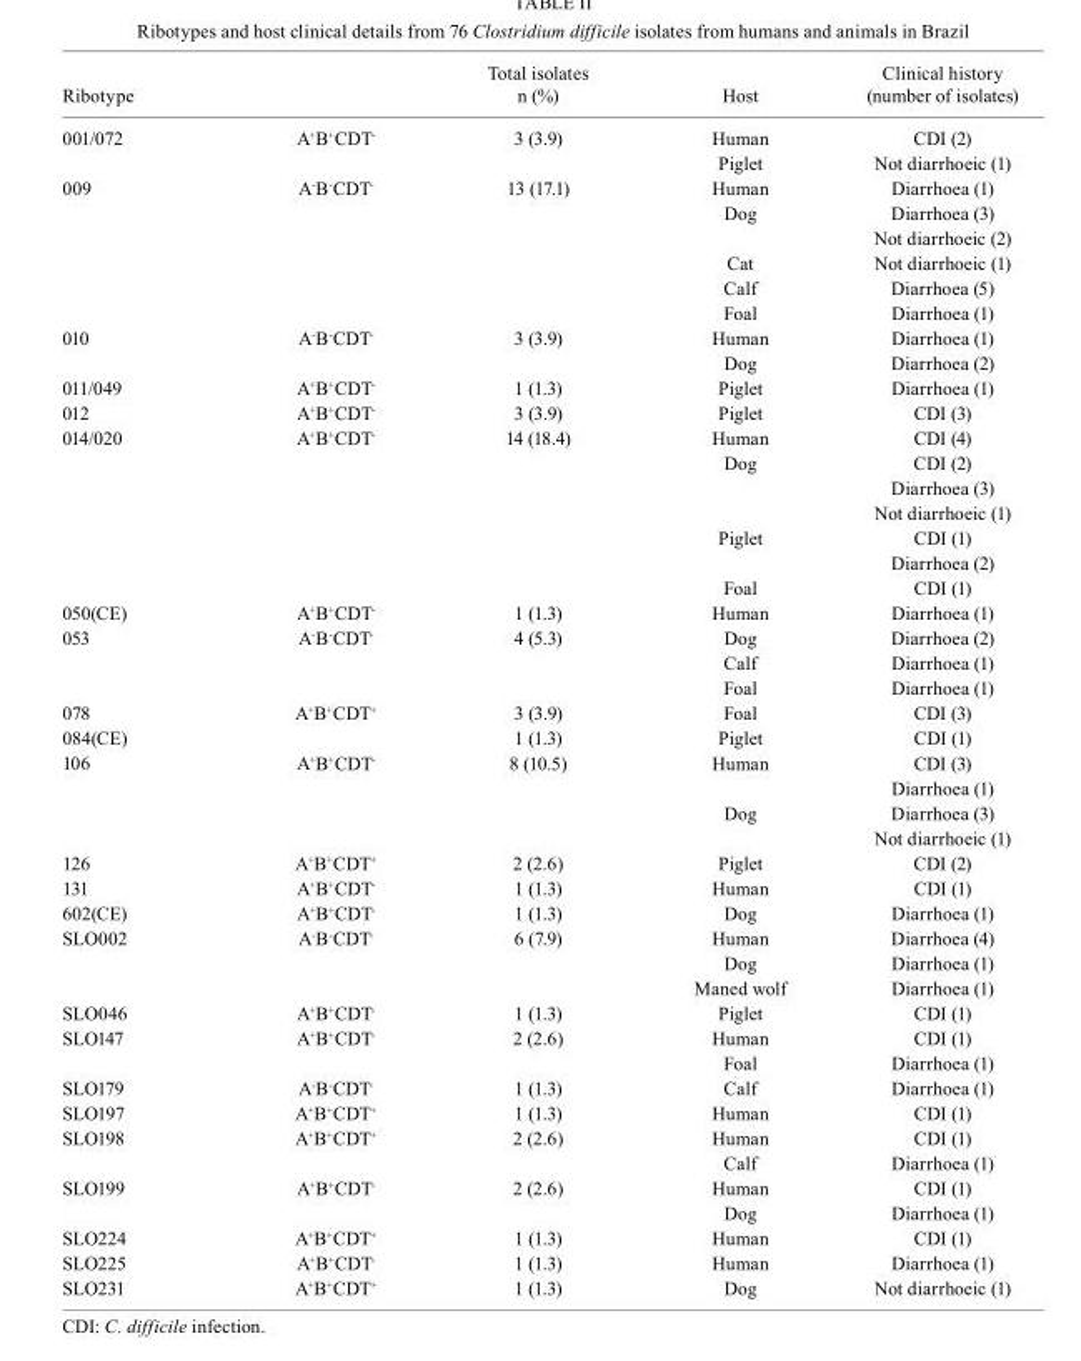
<table><thead><tr><td>Ribotype</td><td></td><td>Total isolates n (%)</td><td>Host</td><td>Clinical history (number of isolates)</td></tr></thead><tbody><tr><td rowspan="2">001/072</td><td rowspan="2">A<sup>+</sup>B<sup>+</sup>CDT<sup>-</sup></td><td rowspan="2">3 (3.9)</td><td>Human</td><td>CDI (2)</td></tr><tr><td>Piglet</td><td>Not diarrhoeic (1)</td></tr><tr><td rowspan="6">009</td><td rowspan="6">A<sup>-</sup>B<sup>-</sup>CDT<sup>-</sup></td><td rowspan="6">13 (17.1)</td><td>Human</td><td>Diarrhoea (1)</td></tr><tr><td rowspan="2">Dog</td><td>Diarrhoea (3)</td></tr><tr><td>Not diarrhoeic (2)</td></tr><tr><td>Cat</td><td>Not diarrhoeic (1)</td></tr><tr><td>Calf</td><td>Diarrhoea (5)</td></tr><tr><td>Foal</td><td>Diarrhoea (1)</td></tr><tr><td rowspan="2">010</td><td rowspan="2">A<sup>-</sup>B<sup>-</sup>CDT<sup>-</sup></td><td rowspan="2">3 (3.9)</td><td>Human</td><td>Diarrhoea (1)</td></tr><tr><td>Dog</td><td>Diarrhoea (2)</td></tr><tr><td>011/049</td><td>A<sup>+</sup>B<sup>+</sup>CDT<sup>-</sup></td><td>1 (1.3)</td><td>Piglet</td><td>Diarrhoea (1)</td></tr><tr><td>012</td><td>A<sup>+</sup>B<sup>+</sup>CDT<sup>-</sup></td><td>3 (3.9)</td><td>Piglet</td><td>CDI (3)</td></tr><tr><td rowspan="7">014/020</td><td rowspan="7">A<sup>+</sup>B<sup>+</sup>CDT<sup>-</sup></td><td rowspan="7">14 (18.4)</td><td>Human</td><td>CDI (4)</td></tr><tr><td rowspan="3">Dog</td><td>CDI (2)</td></tr><tr><td>Diarrhoea (3)</td></tr><tr><td>Not diarrhoeic (1)</td></tr><tr><td rowspan="2">Piglet</td><td>CDI (1)</td></tr><tr><td>Diarrhoea (2)</td></tr><tr><td>Foal</td><td>CDI (1)</td></tr><tr><td>050(CE)</td><td>A<sup>+</sup>B<sup>+</sup>CDT<sup>-</sup></td><td>1 (1.3)</td><td>Human</td><td>Diarrhoea (1)</td></tr><tr><td rowspan="3">053</td><td rowspan="3">A<sup>-</sup>B<sup>-</sup>CDT<sup>-</sup></td><td rowspan="3">4 (5.3)</td><td>Dog</td><td>Diarrhoea (2)</td></tr><tr><td>Calf</td><td>Diarrhoea (1)</td></tr><tr><td>Foal</td><td>Diarrhoea (1)</td></tr><tr><td>078</td><td>A<sup>+</sup>B<sup>+</sup>CDT<sup>+</sup></td><td>3 (3.9)</td><td>Foal</td><td>CDI (3)</td></tr><tr><td>084(CE)</td><td></td><td>1 (1.3)</td><td>Piglet</td><td>CDI (1)</td></tr><tr><td rowspan="4">106</td><td rowspan="4">A<sup>+</sup>B<sup>+</sup>CDT<sup>-</sup></td><td rowspan="4">8 (10.5)</td><td rowspan="2">Human</td><td>CDI (3)</td></tr><tr><td>Diarrhoea (1)</td></tr><tr><td rowspan="2">Dog</td><td>Diarrhoea (3)</td></tr><tr><td>Not diarrhoeic (1)</td></tr><tr><td>126</td><td>A<sup>+</sup>B<sup>+</sup>CDT<sup>+</sup></td><td>2 (2.6)</td><td>Piglet</td><td>CDI (2)</td></tr><tr><td>131</td><td>A<sup>+</sup>B<sup>+</sup>CDT<sup>-</sup></td><td>1 (1.3)</td><td>Human</td><td>CDI (1)</td></tr><tr><td>602(CE)</td><td>A<sup>+</sup>B<sup>+</sup>CDT<sup>-</sup></td><td>1 (1.3)</td><td>Dog</td><td>Diarrhoea (1)</td></tr><tr><td rowspan="3">SLO002</td><td rowspan="3">A<sup>-</sup>B<sup>-</sup>CDT<sup>-</sup></td><td rowspan="3">6 (7.9)</td><td>Human</td><td>Diarrhoea (4)</td></tr><tr><td>Dog</td><td>Diarrhoea (1)</td></tr><tr><td>Maned wolf</td><td>Diarrhoea (1)</td></tr><tr><td>SLO046</td><td>A<sup>+</sup>B<sup>+</sup>CDT<sup>-</sup></td><td>1 (1.3)</td><td>Piglet</td><td>CDI (1)</td></tr><tr><td rowspan="2">SLO147</td><td rowspan="2">A<sup>+</sup>B<sup>+</sup>CDT<sup>-</sup></td><td rowspan="2">2 (2.6)</td><td>Human</td><td>CDI (1)</td></tr><tr><td>Foal</td><td>Diarrhoea (1)</td></tr><tr><td>SLO179</td><td>A<sup>-</sup>B<sup>-</sup>CDT<sup>-</sup></td><td>1 (1.3)</td><td>Calf</td><td>Diarrhoea (1)</td></tr><tr><td>SLO197</td><td>A<sup>+</sup>B<sup>+</sup>CDT<sup>+</sup></td><td>1 (1.3)</td><td>Human</td><td>CDI (1)</td></tr><tr><td rowspan="2">SLO198</td><td rowspan="2">A<sup>+</sup>B<sup>+</sup>CDT<sup>+</sup></td><td rowspan="2">2 (2.6)</td><td>Human</td><td>CDI (1)</td></tr><tr><td>Calf</td><td>Diarrhoea (1)</td></tr><tr><td rowspan="2">SLO199</td><td rowspan="2">A<sup>+</sup>B<sup>+</sup>CDT<sup>-</sup></td><td rowspan="2">2 (2.6)</td><td>Human</td><td>CDI (1)</td></tr><tr><td>Dog</td><td>Diarrhoea (1)</td></tr><tr><td>SLO224</td><td>A<sup>+</sup>B<sup>+</sup>CDT<sup>+</sup></td><td>1 (1.3)</td><td>Human</td><td>CDI (1)</td></tr><tr><td>SLO225</td><td>A<sup>+</sup>B<sup>+</sup>CDT<sup>-</sup></td><td>1 (1.3)</td><td>Human</td><td>Diarrhoea (1)</td></tr><tr><td>SLO231</td><td>A<sup>+</sup>B<sup>+</sup>CDT<sup>+</sup></td><td>1 (1.3)</td><td>Dog</td><td>Not diarrhoeic (1)</td></tr></tbody></table>